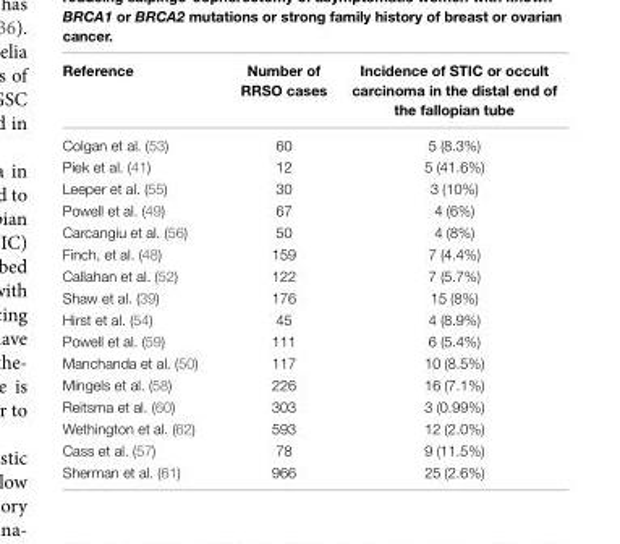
<table><thead><tr><td>Reference</td><td>Number of RRSO cases</td><td>incidence of STiC or occult carcinoma in the distal end of the fallopian tube</td></tr></thead><tbody><tr><td>Colgan et al. (53)</td><td>60</td><td>5 (8.3%)</td></tr><tr><td>Piek et al. (41)</td><td>12</td><td>5 (41.6%)</td></tr><tr><td>Leeper et al. (55)</td><td>30</td><td>3 (10%)</td></tr><tr><td>Powell et al. (49)</td><td>67</td><td>4 (6%)</td></tr><tr><td>Carcangiu et al. (56)</td><td>50</td><td>4 (8%)</td></tr><tr><td>Finch, et al. (48)</td><td>159</td><td>7 (4.4%)</td></tr><tr><td>Callahan et al. (52)</td><td>122</td><td>7 (5.7%)</td></tr><tr><td>Shaw et al. (39)</td><td>176</td><td>15 (8%)</td></tr><tr><td>Hirst et al. (54)</td><td>45</td><td>4 (8.9%)</td></tr><tr><td>Powell et al. (59)</td><td>111</td><td>6 (5.4%)</td></tr><tr><td>Manchanda et al. (50)</td><td>117</td><td>10 (8.5%)</td></tr><tr><td>Mingels et al. (58)</td><td>226</td><td>16 (7.1%)</td></tr><tr><td>Reitsma et al. (60)</td><td>303</td><td>3 (0.99%)</td></tr><tr><td>Wethington et al. (62)</td><td>593</td><td>12 (2.0%)</td></tr><tr><td>Cass et al. (57)</td><td>78</td><td>9 (11.5%)</td></tr><tr><td>Sherman et al. (61)</td><td>966</td><td>25 (2.6%)</td></tr></tbody></table>